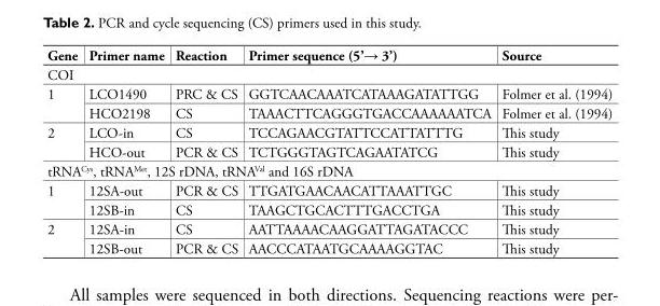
<table><thead><tr><td>Gene</td><td>Primer name</td><td>Reaction</td><td>Primer sequence (5’→ 3’)</td><td>Source</td></tr></thead><tbody><tr><td colspan="5">COI</td></tr><tr><td rowspan="2">1</td><td>LCO1490</td><td>PRC &amp; CS</td><td>GGTCAACAAATCATAAAGATATTGG</td><td>Folmer et al. (1994)</td></tr><tr><td>HCO2198</td><td>CS</td><td>TAAACTTCAGGGTGACCAAAAAATCA</td><td>Folmer et al. (1994)</td></tr><tr><td rowspan="2">2</td><td>LCO-in</td><td>CS</td><td>TCCAGAACGTATTCCATTATTTG</td><td>This study</td></tr><tr><td>HCO-out</td><td>PCR &amp; CS</td><td>TCTGGGTAGTCAGAATATCG</td><td>This study</td></tr><tr><td colspan="5">tRNA<sup>Cys</sup>, tRNA<sup>Met</sup>, 12S rDNA, tRNA<sup>Val</sup> and 16S rDNA</td></tr><tr><td rowspan="2">1</td><td>12SA-out</td><td>PCR &amp; CS</td><td>TTGATGAACAACATTAAATTGC</td><td>This study</td></tr><tr><td>12SB-in</td><td>CS</td><td>TAAGCTGCACTTTGACCTGA</td><td>This study</td></tr><tr><td rowspan="2">2</td><td>12SA-in</td><td>CS</td><td>AATTAAAACAAGGATTAGATACCC</td><td>This study</td></tr><tr><td>12SB-out</td><td>PCR &amp; CS</td><td>AACCCATAATGCAAAAGGTAC</td><td>This study</td></tr></tbody></table>